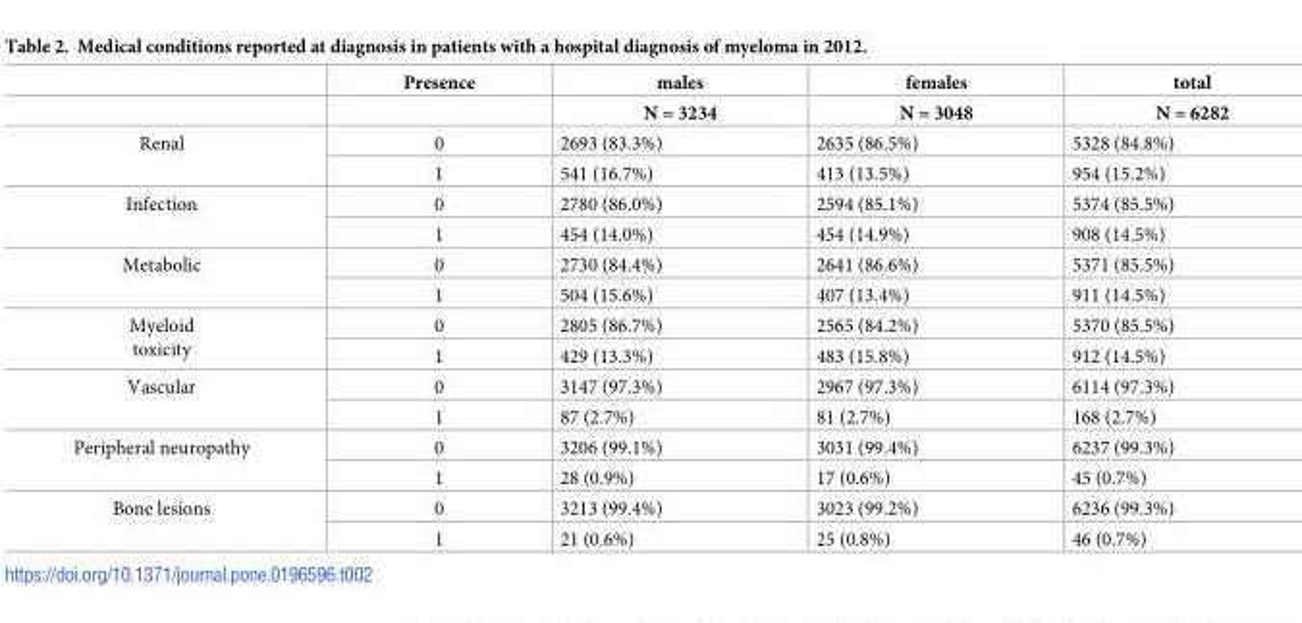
<table><thead><tr><td rowspan="2"></td><td rowspan="2">Presence</td><td rowspan="2">males N = 3234</td><td rowspan="2">females N = 3048</td><td rowspan="2">total N = 6282</td></tr><tr></tr></thead><tbody><tr><td rowspan="2">Renal</td><td>0</td><td>2693 (83.3%)</td><td>2635 (86.5%)</td><td>5328 (84.8%)</td></tr><tr><td>1</td><td>541 (16.7%)</td><td>413 (13.5%)</td><td>954 (15.2%)</td></tr><tr><td rowspan="2">Infection</td><td>0</td><td>2780 (86.0%)</td><td>2594 (85.1%)</td><td>5374 (85.5%)</td></tr><tr><td>1</td><td>454 (14.0%)</td><td>454 (14.9%)</td><td>908 (14.5%)</td></tr><tr><td rowspan="2">Metabolic</td><td>0</td><td>2730 (84.4%)</td><td>2641 (86.6%)</td><td>5371 (85.5%)</td></tr><tr><td>1</td><td>504 (15.6%)</td><td>407 (13.4%)</td><td>911 (14.5%)</td></tr><tr><td rowspan="2">Myeloid toxicity</td><td>0</td><td>2805 (86.7%)</td><td>2565 (84.2%)</td><td>5370 (85.5%)</td></tr><tr><td>1</td><td>429 (13.3%)</td><td>483 (15.8%)</td><td>912 (14.5%)</td></tr><tr><td rowspan="2">Vascular</td><td>0</td><td>3147 (97.3%)</td><td>2967 (97.3%)</td><td>6114 (97.3%)</td></tr><tr><td>1</td><td>87 (2.7%)</td><td>81 (2.7%)</td><td>168 (2.7%)</td></tr><tr><td rowspan="2">Peripheral neuropathy</td><td>0</td><td>3206 (99.1%)</td><td>3031 (99.4%)</td><td>6237 (99.3%)</td></tr><tr><td>1</td><td>28 (0.9%)</td><td>17 (0.6%)</td><td>45 (0.7%)</td></tr><tr><td rowspan="2">Bone lesions</td><td>0</td><td>3213 (99.4%)</td><td>3023 (99.2%)</td><td>6236 (99.3%)</td></tr><tr><td>1</td><td>21 (0.6%)</td><td>25 (0.8%)</td><td>46 (0.7%)</td></tr></tbody></table>